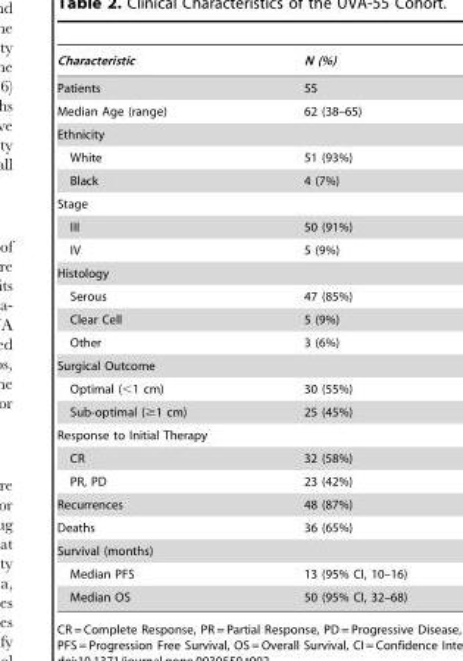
<table><thead><tr><td>Characteristic</td><td>N (%)</td></tr></thead><tbody><tr><td>Patients</td><td>55</td></tr><tr><td>Median Age (range)</td><td>62 (38–65)</td></tr><tr><td colspan="2">Ethnicity</td></tr><tr><td>White</td><td>51 (93%)</td></tr><tr><td>Black</td><td>4 (7%)</td></tr><tr><td colspan="2">Stage</td></tr><tr><td>III</td><td>50 (91%)</td></tr><tr><td>IV</td><td>5 (9%)</td></tr><tr><td colspan="2">Histology</td></tr><tr><td>Serous</td><td>47 (85%)</td></tr><tr><td>Clear Cell</td><td>5 (9%)</td></tr><tr><td>Other</td><td>3 (6%)</td></tr><tr><td colspan="2">Surgical Outcome</td></tr><tr><td>Optimal (&lt;1 cm)</td><td>30 (55%)</td></tr><tr><td>Sub-optimal (≥1 cm)</td><td>25 (45%)</td></tr><tr><td colspan="2">Response to Initial Therapy</td></tr><tr><td>CR</td><td>32 (58%)</td></tr><tr><td>PR, PD</td><td>23 (42%)</td></tr><tr><td>Recurrences</td><td>48 (87%)</td></tr><tr><td>Deaths</td><td>36 (65%)</td></tr><tr><td colspan="2">Survival (months)</td></tr><tr><td>Median PFS</td><td>13 (95% CI, 10–16)</td></tr><tr><td>Median OS</td><td>50 (95% CI, 32–68)</td></tr></tbody></table>